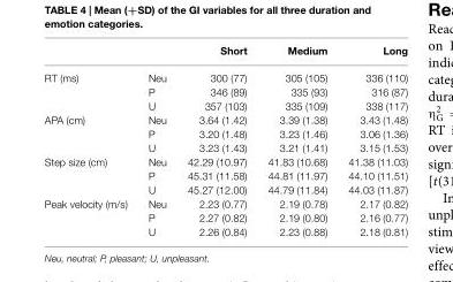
<table><thead><tr><td></td><td></td><td>Short</td><td>Medium</td><td>Long</td></tr></thead><tbody><tr><td rowspan="3">RT (ms)</td><td>Neu</td><td>300 (77)</td><td>305 (105)</td><td>336 (110)</td></tr><tr><td>P</td><td>346 (89)</td><td>335 (93)</td><td>316 (87)</td></tr><tr><td>U</td><td>357 (103)</td><td>335 (109)</td><td>338 (117)</td></tr><tr><td rowspan="3">APA (cm)</td><td>Neu</td><td>3.64 (1.42)</td><td>3.39 (1.38)</td><td>3.43 (1.48)</td></tr><tr><td>P</td><td>3.20 (1.48)</td><td>3.23 (1.46)</td><td>3.06 (1.36)</td></tr><tr><td>U</td><td>3.23 (1.43)</td><td>3.21 (1.41)</td><td>3.15 (1.53)</td></tr><tr><td rowspan="3">Step size (cm)</td><td>Neu</td><td>42.29 (10.97)</td><td>41.83 (10.68)</td><td>41.38 (11.03)</td></tr><tr><td>P</td><td>45.31 (11.58)</td><td>44.81 (11.97)</td><td>44.10 (11.51)</td></tr><tr><td>U</td><td>45.27 (12.00)</td><td>44.79 (11.84)</td><td>44.03 (11.87)</td></tr><tr><td rowspan="3">Peak velocity (m/s)</td><td>Neu</td><td>2.23 (0.77)</td><td>2.19 (0.78)</td><td>2.17 (0.82)</td></tr><tr><td>P</td><td>2.27 (0.82)</td><td>2.19 (0.80)</td><td>2.16 (0.77)</td></tr><tr><td>U</td><td>2.26 (0.84)</td><td>2.23 (0.88)</td><td>2.18 (0.81)</td></tr></tbody></table>